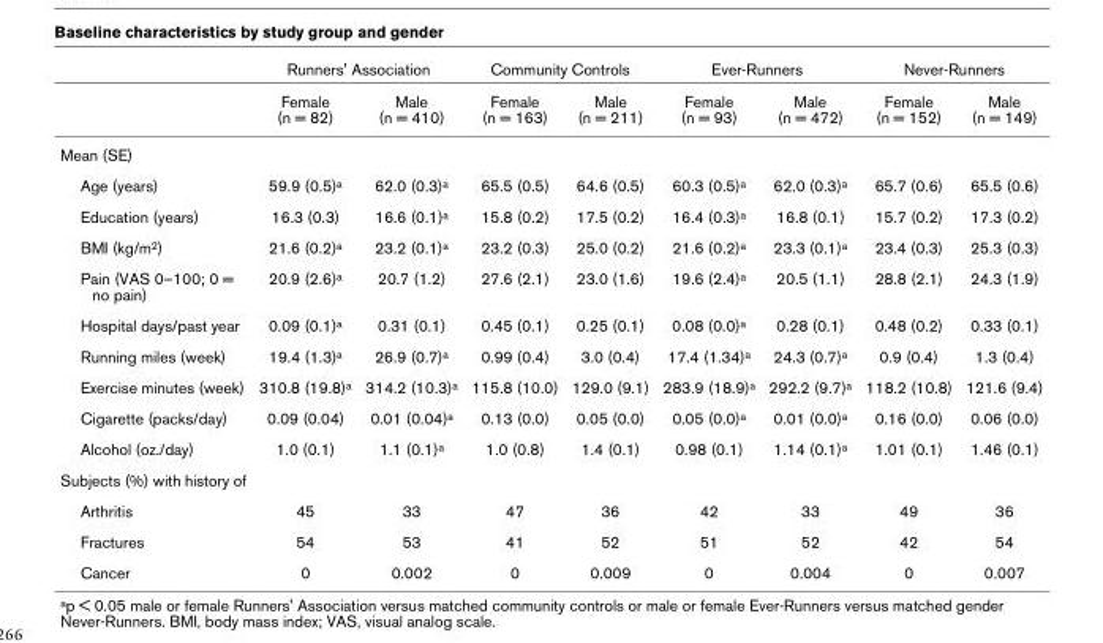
<table><thead><tr><td rowspan="2"></td><td colspan="2">Runners&#x27; Association</td><td colspan="2">Community Controls</td><td colspan="2">Ever-Runners</td><td colspan="2">Never-Runners</td></tr><tr><td>Female (n = 82)</td><td>Male (n = 410)</td><td>Female (n = 163)</td><td>Male (n = 211)</td><td>Female (n = 93)</td><td>Male (n = 472)</td><td>Female (n = 152)</td><td>Male (n = 149)</td></tr></thead><tbody><tr><td colspan="9">Mean (SE)</td></tr><tr><td>Age (years)</td><td>59.9 (0.5)a</td><td>62.0 (0.3)a</td><td>65.5 (0.5)</td><td>64.6 (0.5)</td><td>60.3 (0.5)a</td><td>62.0 (0.3)a</td><td>65.7 (0.6)</td><td>65.5 (0.6)</td></tr><tr><td>Education (years)</td><td>16.3 (0.3)</td><td>16.6 (0.1)a</td><td>15.8 (0.2)</td><td>17.5 (0.2)</td><td>16.4 (0.3)a</td><td>16.8 (0.1)</td><td>15.7 (0.2)</td><td>17.3 (0.2)</td></tr><tr><td>BMI (kg/m2)</td><td>21.6 (0.2)a</td><td>23.2 (0.1)a</td><td>23.2 (0.3)</td><td>25.0 (0.2)</td><td>21.6 (0.2)a</td><td>23.3 (0.1)a</td><td>23.4 (0.3)</td><td>25.3 (0.3)</td></tr><tr><td>Pain (VAS 0–100; 0 = no pain)</td><td>20.9 (2.6)a</td><td>20.7 (1.2)</td><td>27.6 (2.1)</td><td>23.0 (1.6)</td><td>19.6 (2.4)a</td><td>20.5 (1.1)</td><td>28.8 (2.1)</td><td>24.3 (1.9)</td></tr><tr><td>Hospital days/past year</td><td>0.09 (0.1)a</td><td>0.31 (0.1)</td><td>0.45 (0.1)</td><td>0.25 (0.1)</td><td>0.08 (0.0)a</td><td>0.28 (0.1)</td><td>0.48 (0.2)</td><td>0.33 (0.1)</td></tr><tr><td>Running miles (week)</td><td>19.4 (1.3)a</td><td>26.9 (0.7)a</td><td>0.99 (0.4)</td><td>3.0 (0.4)</td><td>17.4 (1.34)a</td><td>24.3 (0.7)a</td><td>0.9 (0.4)</td><td>1.3 (0.4)</td></tr><tr><td>Exercise minutes (week)</td><td>310.8 (19.8)a</td><td>314.2 (10.3)a</td><td>115.8 (10.0)</td><td>129.0 (9.1)</td><td>283.9 (18.9)a</td><td>292.2 (9.7)a</td><td>118.2 (10.8)</td><td>121.6 (9.4)</td></tr><tr><td>Cigarette (packs/day)</td><td>0.09 (0.04)</td><td>0.01 (0.04)a</td><td>0.13 (0.0)</td><td>0.05 (0.0)</td><td>0.05 (0.0)a</td><td>0.01 (0.0)a</td><td>0.16 (0.0)</td><td>0.06 (0.0)</td></tr><tr><td>Alcohol (oz./day)</td><td>1.0 (0.1)</td><td>1.1 (0.1)a</td><td>1.0 (0.8)</td><td>1.4 (0.1)</td><td>0.98 (0.1)</td><td>1.14 (0.1)a</td><td>1.01 (0.1)</td><td>1.46 (0.1)</td></tr><tr><td colspan="9">Subjects (%) with history of</td></tr><tr><td>Arthritis</td><td>45</td><td>33</td><td>47</td><td>36</td><td>42</td><td>33</td><td>49</td><td>36</td></tr><tr><td>Fractures</td><td>54</td><td>53</td><td>41</td><td>52</td><td>51</td><td>52</td><td>42</td><td>54</td></tr><tr><td>Cancer</td><td>0</td><td>0.002</td><td>0</td><td>0.009</td><td>0</td><td>0.004</td><td>0</td><td>0.007</td></tr></tbody></table>